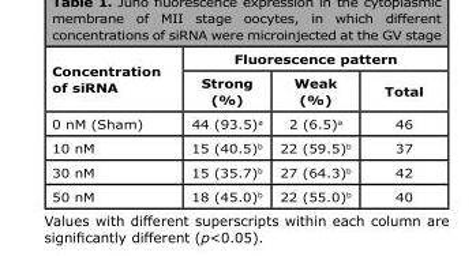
<table><thead><tr><td rowspan="2">Concentration of siRNA</td><td colspan="3">Fluorescence pattern</td></tr><tr><td>Strong (%)</td><td>Weak (%)</td><td>Total</td></tr></thead><tbody><tr><td>0 nM (Sham)</td><td>44 (93.5)<sup>a</sup></td><td>2 (6.5)<sup>a</sup></td><td>46</td></tr><tr><td>10 nM</td><td>15 (40.5)<sup>b</sup></td><td>22 (59.5)<sup>b</sup></td><td>37</td></tr><tr><td>30 nM</td><td>15 (35.7)<sup>b</sup></td><td>27 (64.3)<sup>b</sup></td><td>42</td></tr><tr><td>50 nM</td><td>18 (45.0)<sup>b</sup></td><td>22 (55.0)<sup>b</sup></td><td>40</td></tr></tbody></table>